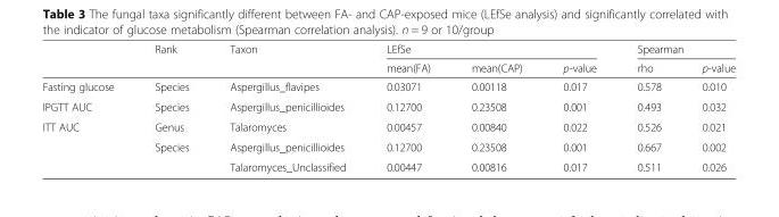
<table><thead><tr><td rowspan="2"></td><td rowspan="2">Rank</td><td rowspan="2">Taxon</td><td colspan="3">LEfSe</td><td colspan="2">Spearman</td></tr><tr><td>mean(FA)</td><td>mean(CAP)</td><td>p-value</td><td>rho</td><td>p-value</td></tr></thead><tbody><tr><td>Fasting glucose</td><td>Species</td><td>Aspergillus_flavipes</td><td>0.03071</td><td>0.00118</td><td>0.017</td><td>0.578</td><td>0.010</td></tr><tr><td>IPGTT AUC</td><td>Species</td><td>Aspergillus_penicillioides</td><td>0.12700</td><td>0.23508</td><td>0.001</td><td>0.493</td><td>0.032</td></tr><tr><td rowspan="3">ITT AUC</td><td>Genus</td><td>Talaromyces</td><td>0.00457</td><td>0.00840</td><td>0.022</td><td>0.526</td><td>0.021</td></tr><tr><td rowspan="2">Species</td><td>Aspergillus_penicillioides</td><td>0.12700</td><td>0.23508</td><td>0.001</td><td>0.667</td><td>0.002</td></tr><tr><td>Talaromyces_Unclassified</td><td>0.00447</td><td>0.00816</td><td>0.017</td><td>0.511</td><td>0.026</td></tr></tbody></table>